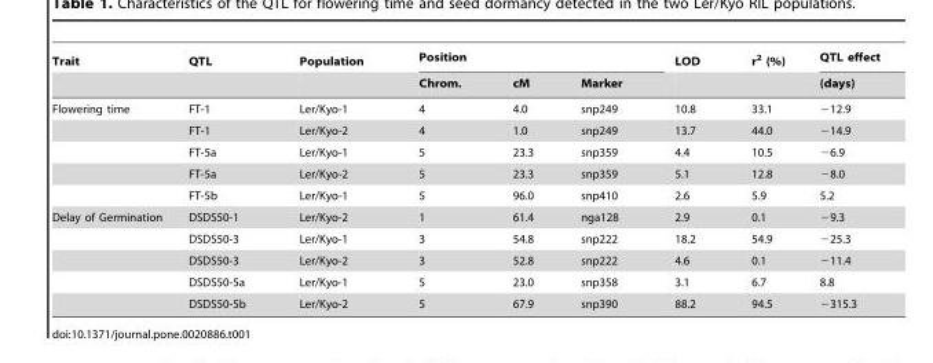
<table><thead><tr><td rowspan="2">Trait</td><td rowspan="2">QTL</td><td rowspan="2">Population</td><td colspan="3">Position</td><td rowspan="2">LOD</td><td rowspan="2">r<sup>2</sup> (%)</td><td rowspan="2">QTL effect (days)</td></tr><tr><td>Chrom.</td><td>cM</td><td>Marker</td></tr></thead><tbody><tr><td rowspan="5">Flowering time</td><td>FT-1</td><td>Ler/Kyo-1</td><td>4</td><td>4.0</td><td>snp249</td><td>10.8</td><td>33.1</td><td>−12.9</td></tr><tr><td>FT-1</td><td>Ler/Kyo-2</td><td>4</td><td>1.0</td><td>snp249</td><td>13.7</td><td>44.0</td><td>−14.9</td></tr><tr><td>FT-5a</td><td>Ler/Kyo-1</td><td>5</td><td>23.3</td><td>snp359</td><td>4.4</td><td>10.5</td><td>−6.9</td></tr><tr><td>FT-5a</td><td>Ler/Kyo-2</td><td>5</td><td>23.3</td><td>snp359</td><td>5.1</td><td>12.8</td><td>−8.0</td></tr><tr><td>FT-5b</td><td>Ler/Kyo-1</td><td>5</td><td>96.0</td><td>snp410</td><td>2.6</td><td>5.9</td><td>5.2</td></tr><tr><td rowspan="5">Delay of Germination</td><td>DSDS50-1</td><td>Ler/Kyo-2</td><td>1</td><td>61.4</td><td>nga128</td><td>2.9</td><td>0.1</td><td>−9.3</td></tr><tr><td>DSDS50-3</td><td>Ler/Kyo-1</td><td>3</td><td>54.8</td><td>snp222</td><td>18.2</td><td>54.9</td><td>−25.3</td></tr><tr><td>DSDS50-3</td><td>Ler/Kyo-2</td><td>3</td><td>52.8</td><td>snp222</td><td>4.6</td><td>0.1</td><td>−11.4</td></tr><tr><td>DSDS50-5a</td><td>Ler/Kyo-1</td><td>5</td><td>23.0</td><td>snp358</td><td>3.1</td><td>6.7</td><td>8.8</td></tr><tr><td>DSDS50-5b</td><td>Ler/Kyo-2</td><td>5</td><td>67.9</td><td>snp390</td><td>88.2</td><td>94.5</td><td>−315.3</td></tr></tbody></table>